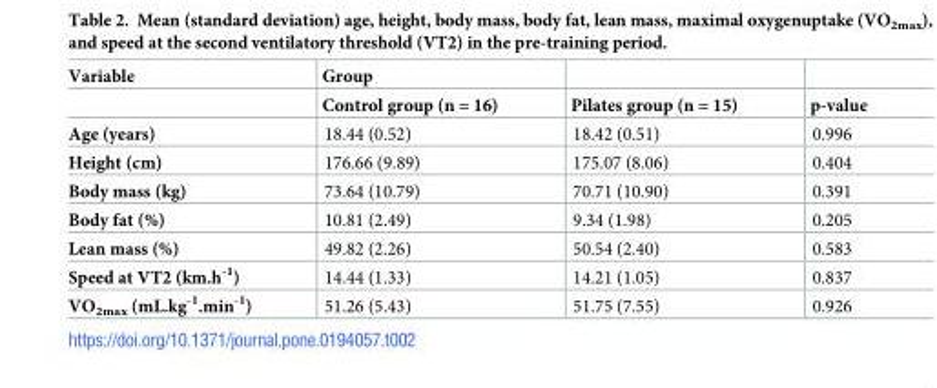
<table><thead><tr><td rowspan="2">Variable</td><td rowspan="2">Group Control group (n = 16)</td><td rowspan="2">Pilates group (n = 15)</td><td rowspan="2">p-value</td></tr><tr></tr></thead><tbody><tr><td>Age (years)</td><td>18.44 (0.52)</td><td>18.42 (0.51)</td><td>0.996</td></tr><tr><td>Height (cm)</td><td>176.66 (9.89)</td><td>175.07 (8.06)</td><td>0.404</td></tr><tr><td>Body mass (kg)</td><td>73.64 (10.79)</td><td>70.71 (10.90)</td><td>0.391</td></tr><tr><td>Body fat (%)</td><td>10.81 (2.49)</td><td>9.34 (1.98)</td><td>0.205</td></tr><tr><td>Lean mass (%)</td><td>49.82 (2.26)</td><td>50.54 (2.40)</td><td>0.583</td></tr><tr><td>Speed at VT2 (km.h<sup>-1</sup>)</td><td>14.44 (1.33)</td><td>14.21 (1.05)</td><td>0.837</td></tr><tr><td>VO<sub>2max</sub> (mL.kg<sup>-1</sup>.min<sup>-1</sup>)</td><td>51.26 (5.43)</td><td>51.75 (7.55)</td><td>0.926</td></tr></tbody></table>